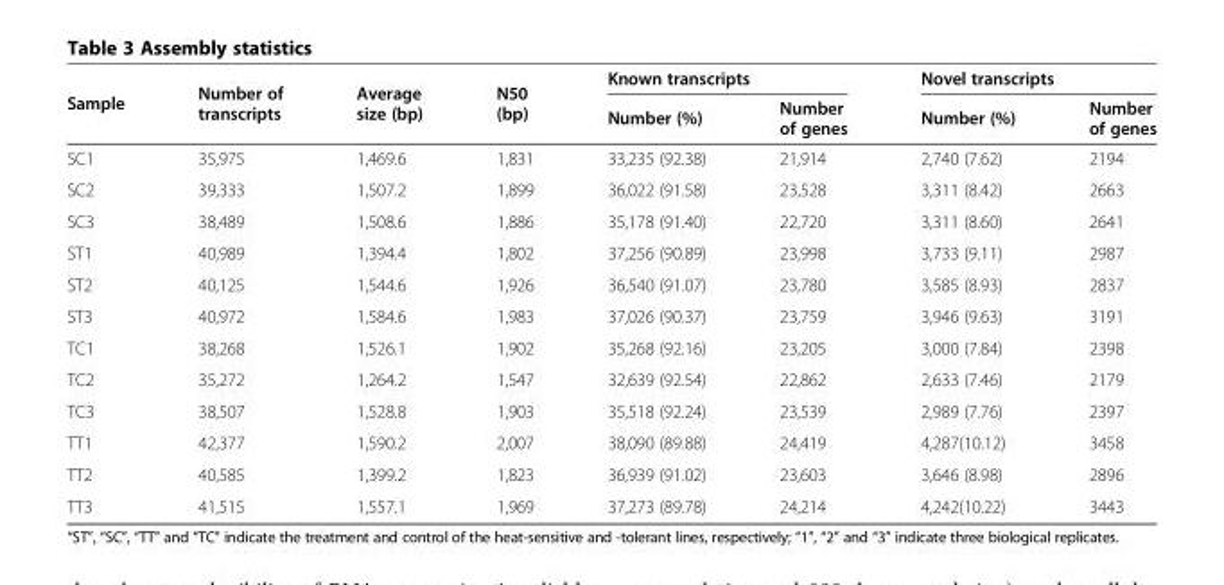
<table><thead><tr><td rowspan="2">Sample</td><td rowspan="2">Number of transcripts</td><td rowspan="2">Average size (bp)</td><td rowspan="2">N50 (bp)</td><td colspan="2">Known transcripts</td><td colspan="2">Novel transcripts</td></tr><tr><td>Number (%)</td><td>Number of genes</td><td>Number (%)</td><td>Number of genes</td></tr></thead><tbody><tr><td>SC1</td><td>35,975</td><td>1,469.6</td><td>1,831</td><td>33,235 (92.38)</td><td>21,914</td><td>2,740 (7.62)</td><td>2194</td></tr><tr><td>SC2</td><td>39,333</td><td>1,507.2</td><td>1,899</td><td>36,022 (91.58)</td><td>23,528</td><td>3,311 (8.42)</td><td>2663</td></tr><tr><td>SC3</td><td>38,489</td><td>1,508.6</td><td>1,886</td><td>35,178 (91.40)</td><td>22,720</td><td>3,311 (8.60)</td><td>2641</td></tr><tr><td>ST1</td><td>40,989</td><td>1,394.4</td><td>1,802</td><td>37,256 (90.89)</td><td>23,998</td><td>3,733 (9.11)</td><td>2987</td></tr><tr><td>ST2</td><td>40,125</td><td>1,544.6</td><td>1,926</td><td>36,540 (91.07)</td><td>23,780</td><td>3,585 (8.93)</td><td>2837</td></tr><tr><td>ST3</td><td>40,972</td><td>1,584.6</td><td>1,983</td><td>37,026 (90.37)</td><td>23,759</td><td>3,946 (9.63)</td><td>3191</td></tr><tr><td>TC1</td><td>38,268</td><td>1,526.1</td><td>1,902</td><td>35,268 (92.16)</td><td>23,205</td><td>3,000 (7.84)</td><td>2398</td></tr><tr><td>TC2</td><td>35,272</td><td>1,264.2</td><td>1,547</td><td>32,639 (92.54)</td><td>22,862</td><td>2,633 (7.46)</td><td>2179</td></tr><tr><td>TC3</td><td>38,507</td><td>1,528.8</td><td>1,903</td><td>35,518 (92.24)</td><td>23,539</td><td>2,989 (7.76)</td><td>2397</td></tr><tr><td>TT1</td><td>42,377</td><td>1,590.2</td><td>2,007</td><td>38,090 (89.88)</td><td>24,419</td><td>4,287(10.12)</td><td>3458</td></tr><tr><td>TT2</td><td>40,585</td><td>1,399.2</td><td>1,823</td><td>36,939 (91.02)</td><td>23,603</td><td>3,646 (8.98)</td><td>2896</td></tr><tr><td>TT3</td><td>41,515</td><td>1,557.1</td><td>1,969</td><td>37,273 (89.78)</td><td>24,214</td><td>4,242(10.22)</td><td>3443</td></tr></tbody></table>